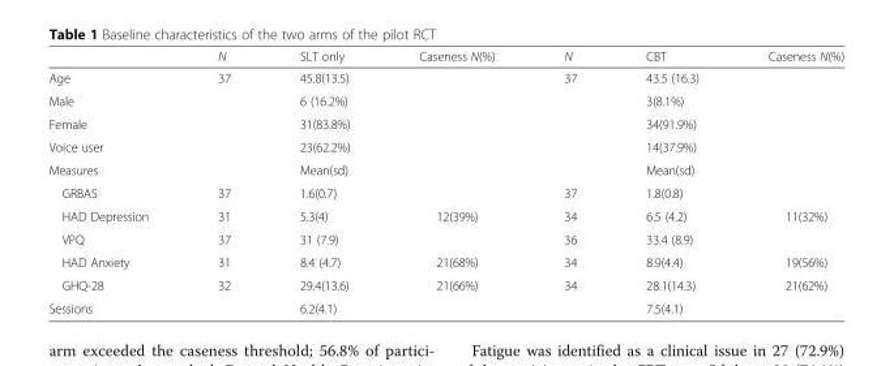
<table><thead><tr><td></td><td>N</td><td>SLT only</td><td>Caseness N(%)</td><td>N</td><td>CBT</td><td>Caseness N(%)</td></tr></thead><tbody><tr><td>Age</td><td>37</td><td>45.8(13.5)</td><td></td><td>37</td><td>43.5 (16.3)</td><td></td></tr><tr><td>Male</td><td></td><td>6 (16.2%)</td><td></td><td></td><td>3(8.1%)</td><td></td></tr><tr><td>Female</td><td></td><td>31(83.8%)</td><td></td><td></td><td>34(91.9%)</td><td></td></tr><tr><td>Voice user</td><td></td><td>23(62.2%)</td><td></td><td></td><td>14(37.9%)</td><td></td></tr><tr><td>Measures</td><td></td><td>Mean(sd)</td><td></td><td></td><td>Mean(sd)</td><td></td></tr><tr><td>GRBAS</td><td>37</td><td>1.6(0.7)</td><td></td><td>37</td><td>1.8(0.8)</td><td></td></tr><tr><td>HAD Depression</td><td>31</td><td>5.3(4)</td><td>12(39%)</td><td>34</td><td>6.5 (4.2)</td><td>11(32%)</td></tr><tr><td>VPQ</td><td>37</td><td>31 (7.9)</td><td></td><td>36</td><td>33.4 (8.9)</td><td></td></tr><tr><td>HAD Anxiety</td><td>31</td><td>8.4 (4.7)</td><td>21(68%)</td><td>34</td><td>8.9(4.4)</td><td>19(56%)</td></tr><tr><td>GHQ-28</td><td>32</td><td>29.4(13.6)</td><td>21(66%)</td><td>34</td><td>28.1(14.3)</td><td>21(62%)</td></tr><tr><td>Sessions</td><td></td><td>6.2(4.1)</td><td></td><td></td><td>7.5(4.1)</td><td></td></tr></tbody></table>